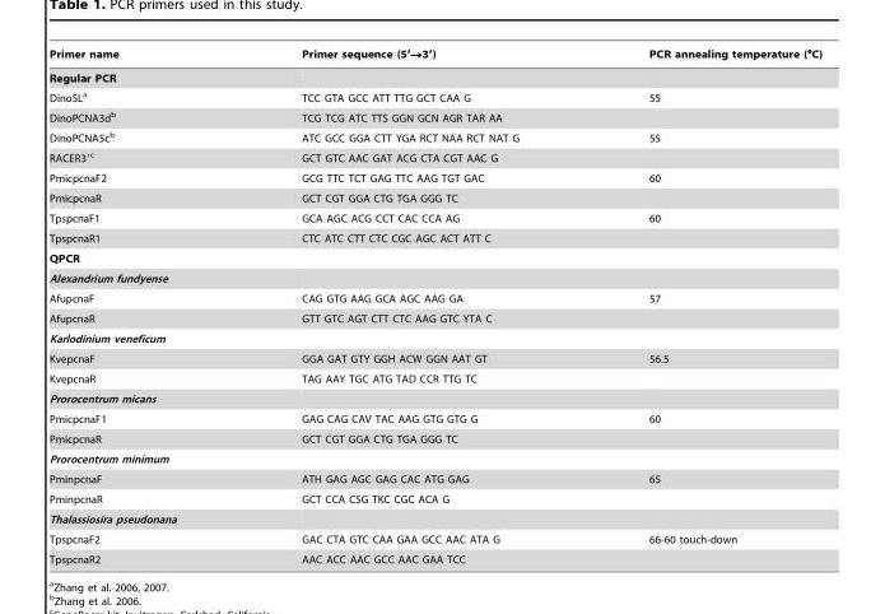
<table><thead><tr><td>Primer name</td><td>Primer sequence (5′→3′)</td><td>PCR annealing temperature (°C)</td></tr></thead><tbody><tr><td colspan="3">Regular PCR</td></tr><tr><td>DinoSL<sup>a</sup></td><td>TCC GTA GCC ATT TTG GCT CAA G</td><td>55</td></tr><tr><td>DinoPCNA3d<sup>b</sup></td><td>TCG TCG ATC TTS GGN GCN AGR TAR AA</td><td></td></tr><tr><td>DinoPCNA5c<sup>b</sup></td><td>ATC GCC GGA CTT YGA RCT NAA RCT NAT G</td><td>55</td></tr><tr><td>RACER3′<sup>c</sup></td><td>GCT GTC AAC GAT ACG CTA CGT AAC G</td><td></td></tr><tr><td>PmicpcnaF2</td><td>GCG TTC TCT GAG TTC AAG TGT GAC</td><td>60</td></tr><tr><td>PmicpcnaR</td><td>GCT CGT GGA CTG TGA GGG TC</td><td></td></tr><tr><td>TpspcnaF1</td><td>GCA AGC ACG CCT CAC CCA AG</td><td>60</td></tr><tr><td>TpspcnaR1</td><td>CTC ATC CTT CTC CGC AGC ACT ATT C</td><td></td></tr><tr><td colspan="3">QPCR</td></tr><tr><td colspan="3">Alexandrium fundyense</td></tr><tr><td>AfupcnaF</td><td>CAG GTG AAG GCA AGC AAG GA</td><td>57</td></tr><tr><td>AfupcnaR</td><td>GTT GTC AGT CTT CTC AAG GTC YTA C</td><td></td></tr><tr><td colspan="3">Karlodinium veneficum</td></tr><tr><td>KvepcnaF</td><td>GGA GAT GTY GGH ACW GGN AAT GT</td><td>56.5</td></tr><tr><td>KvepcnaR</td><td>TAG AAY TGC ATG TAD CCR TTG TC</td><td></td></tr><tr><td colspan="3">Prorocentrum micans</td></tr><tr><td>PmicpcnaF1</td><td>GAG CAG CAV TAC AAG GTG GTG G</td><td>60</td></tr><tr><td>PmicpcnaR</td><td>GCT CGT GGA CTG TGA GGG TC</td><td></td></tr><tr><td colspan="3">Prorocentrum minimum</td></tr><tr><td>PminpcnaF</td><td>ATH GAG AGC GAG CAC ATG GAG</td><td>65</td></tr><tr><td>PminpcnaR</td><td>GCT CCA CSG TKC CGC ACA G</td><td></td></tr><tr><td colspan="3">Thalassiosira pseudonana</td></tr><tr><td>TpspcnaF2</td><td>GAC CTA GTC CAA GAA GCC AAC ATA G</td><td>66-60 touch-down</td></tr><tr><td>TpspcnaR2</td><td>AAC ACC AAC GCC AAC GAA TCC</td><td></td></tr></tbody></table>